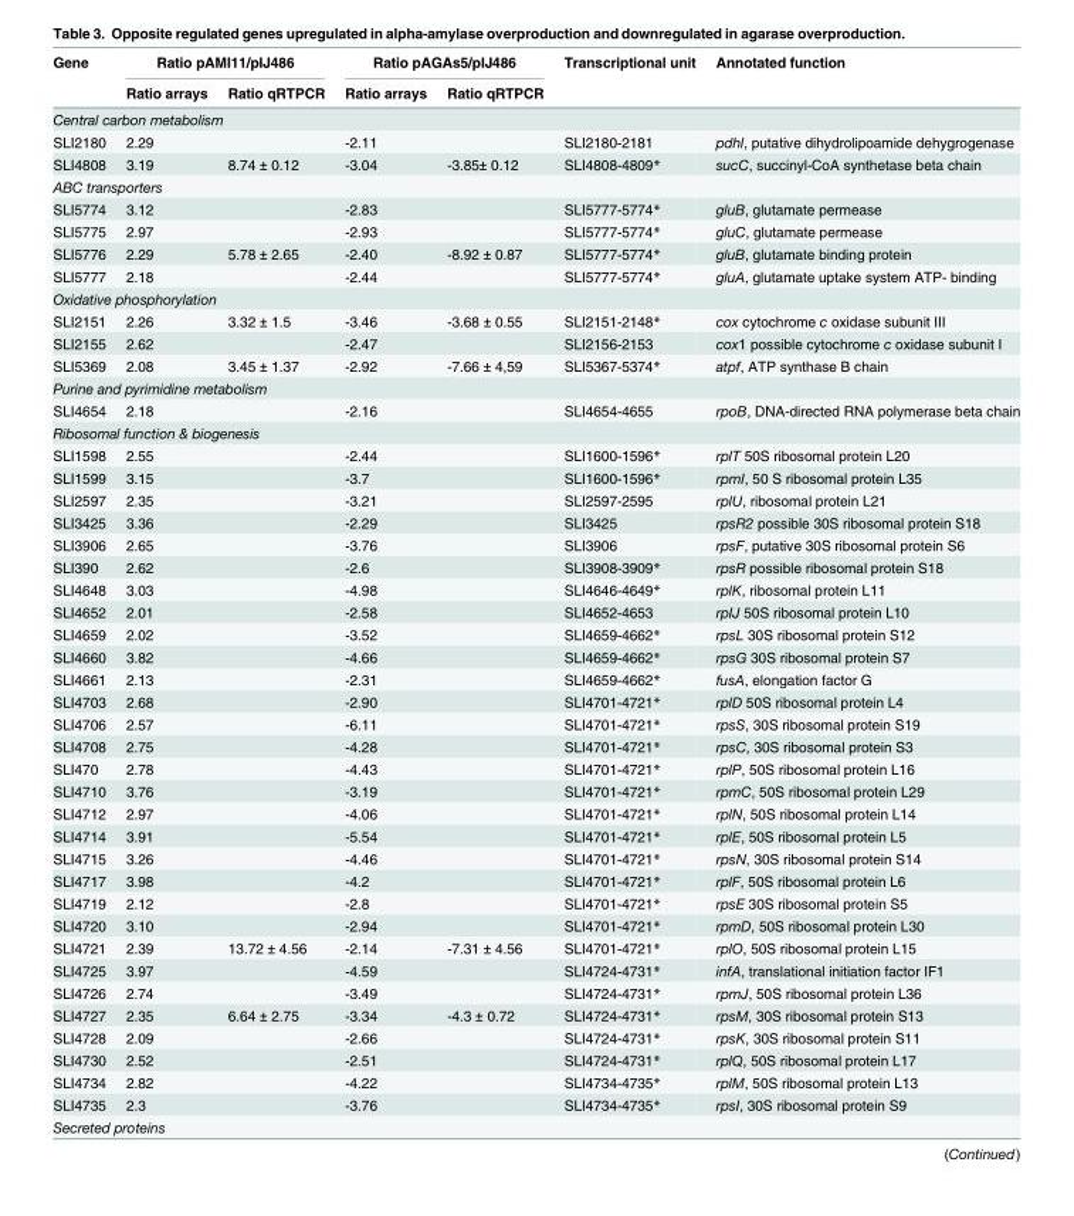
<table><thead><tr><td rowspan="2">Gene</td><td colspan="2">Ratio pAMI11/pIJ486</td><td colspan="2">Ratio pAGAs5/pIJ486</td><td rowspan="2">Transcriptional unit</td><td rowspan="2">Annotated function</td></tr><tr><td>Ratio arrays</td><td>Ratio qRTPCR</td><td>Ratio arrays</td><td>Ratio qRTPCR</td></tr></thead><tbody><tr><td colspan="7">Central carbon metabolism</td></tr><tr><td>SLI2180</td><td>2.29</td><td></td><td>-2.11</td><td></td><td>SLI2180-2181</td><td>pdhl, putative dihydrolipoamide dehygrogenase</td></tr><tr><td>SLI4808</td><td>3.19</td><td>8.74 ± 0.12</td><td>-3.04</td><td>-3.85± 0.12</td><td>SLI4808-4809*</td><td>sucC, succinyl-CoA synthetase beta chain</td></tr><tr><td colspan="7">ABC transporters</td></tr><tr><td>SLI5774</td><td>3.12</td><td></td><td>-2.83</td><td></td><td>SLI5777-5774*</td><td>gluB, glutamate permease</td></tr><tr><td>SLI5775</td><td>2.97</td><td></td><td>-2.93</td><td></td><td>SLI5777-5774*</td><td>gluC, glutamate permease</td></tr><tr><td>SLI5776</td><td>2.29</td><td>5.78 ± 2.65</td><td>-2.40</td><td>-8.92 ± 0.87</td><td>SLI5777-5774*</td><td>gluB, glutamate binding protein</td></tr><tr><td>SLI5777</td><td>2.18</td><td></td><td>-2.44</td><td></td><td>SLI5777-5774*</td><td>gluA, glutamate uptake system ATP- binding</td></tr><tr><td colspan="7">Oxidative phosphorylation</td></tr><tr><td>SLI2151</td><td>2.26</td><td>3.32 ± 1.5</td><td>-3.46</td><td>-3.68 ± 0.55</td><td>SLI2151-2148*</td><td>cox cytochrome c oxidase subunit III</td></tr><tr><td>SLI2155</td><td>2.62</td><td></td><td>-2.47</td><td></td><td>SLI2156-2153</td><td>cox1 possible cytochrome c oxidase subunit I</td></tr><tr><td>SLI5369</td><td>2.08</td><td>3.45 ± 1.37</td><td>-2.92</td><td>-7.66 ± 4,59</td><td>SLI5367-5374*</td><td>atpf, ATP synthase B chain</td></tr><tr><td colspan="7">Purine and pyrimidine metabolism</td></tr><tr><td>SLI4654</td><td>2.18</td><td></td><td>-2.16</td><td></td><td>SLI4654-4655</td><td>rpoB, DNA-directed RNA polymerase beta chain</td></tr><tr><td colspan="7">Ribosomal function &amp; biogenesis</td></tr><tr><td>SLI1598</td><td>2.55</td><td></td><td>-2.44</td><td></td><td>SLI1600-1596*</td><td>rplT 50S ribosomal protein L20</td></tr><tr><td>SLI1599</td><td>3.15</td><td></td><td>-3.7</td><td></td><td>SLI1600-1596*</td><td>rpmI, 50 S ribosomal protein L35</td></tr><tr><td>SLI2597</td><td>2.35</td><td></td><td>-3.21</td><td></td><td>SLI2597-2595</td><td>rplU, ribosomal protein L21</td></tr><tr><td>SLI3425</td><td>3.36</td><td></td><td>-2.29</td><td></td><td>SLI3425</td><td>rpsR2 possible 30S ribosomal protein S18</td></tr><tr><td>SLI3906</td><td>2.65</td><td></td><td>-3.76</td><td></td><td>SLI3906</td><td>rpsF, putative 30S ribosomal protein S6</td></tr><tr><td>SLI390</td><td>2.62</td><td></td><td>-2.6</td><td></td><td>SLI3908-3909*</td><td>rpsR possible ribosomal protein S18</td></tr><tr><td>SLI4648</td><td>3.03</td><td></td><td>-4.98</td><td></td><td>SLI4646-4649*</td><td>rplK, ribosomal protein L11</td></tr><tr><td>SLI4652</td><td>2.01</td><td></td><td>-2.58</td><td></td><td>SLI4652-4653</td><td>rpIJ 50S ribosomal protein L10</td></tr><tr><td>SLI4659</td><td>2.02</td><td></td><td>-3.52</td><td></td><td>SLI4659-4662*</td><td>rpsL 30S ribosomal protein S12</td></tr><tr><td>SLI4660</td><td>3.82</td><td></td><td>-4.66</td><td></td><td>SLI4659-4662*</td><td>rpsG 30S ribosomal protein S7</td></tr><tr><td>SLI4661</td><td>2.13</td><td></td><td>-2.31</td><td></td><td>SLI4659-4662*</td><td>fusA, elongation factor G</td></tr><tr><td>SLI4703</td><td>2.68</td><td></td><td>-2.90</td><td></td><td>SLI4701-4721*</td><td>rplD 50S ribosomal protein L4</td></tr><tr><td>SLI4706</td><td>2.57</td><td></td><td>-6.11</td><td></td><td>SLI4701-4721*</td><td>rpsS, 30S ribosomal protein S19</td></tr><tr><td>SLI4708</td><td>2.75</td><td></td><td>-4.28</td><td></td><td>SLI4701-4721*</td><td>rpsC, 30S ribosomal protein S3</td></tr><tr><td>SLI470</td><td>2.78</td><td></td><td>-4.43</td><td></td><td>SLI4701-4721*</td><td>rplP, 50S ribosomal protein L16</td></tr><tr><td>SLI4710</td><td>3.76</td><td></td><td>-3.19</td><td></td><td>SLI4701-4721*</td><td>rpmC, 50S ribosomal protein L29</td></tr><tr><td>SLI4712</td><td>2.97</td><td></td><td>-4.06</td><td></td><td>SLI4701-4721*</td><td>rplN, 50S ribosomal protein L14</td></tr><tr><td>SLI4714</td><td>3.91</td><td></td><td>-5.54</td><td></td><td>SLI4701-4721*</td><td>rplE, 50S ribosomal protein L5</td></tr><tr><td>SLI4715</td><td>3.26</td><td></td><td>-4.46</td><td></td><td>SLI4701-4721*</td><td>rpsN, 30S ribosomal protein S14</td></tr><tr><td>SLI4717</td><td>3.98</td><td></td><td>-4.2</td><td></td><td>SLI4701-4721*</td><td>rplF, 50S ribosomal protein L6</td></tr><tr><td>SLI4719</td><td>2.12</td><td></td><td>-2.8</td><td></td><td>SLI4701-4721*</td><td>rpsE 30S ribosomal protein S5</td></tr><tr><td>SLI4720</td><td>3.10</td><td></td><td>-2.94</td><td></td><td>SLI4701-4721*</td><td>rpmD, 50S ribosomal protein L30</td></tr><tr><td>SLI4721</td><td>2.39</td><td>13.72 ± 4.56</td><td>-2.14</td><td>-7.31 ± 4.56</td><td>SLI4701-4721*</td><td>rplO, 50S ribosomal protein L15</td></tr><tr><td>SLI4725</td><td>3.97</td><td></td><td>-4.59</td><td></td><td>SLI4724-4731*</td><td>infA, translational initiation factor IF1</td></tr><tr><td>SLI4726</td><td>2.74</td><td></td><td>-3.49</td><td></td><td>SLI4724-4731*</td><td>rpmJ, 50S ribosomal protein L36</td></tr><tr><td>SLI4727</td><td>2.35</td><td>6.64 ± 2.75</td><td>-3.34</td><td>-4.3 ± 0.72</td><td>SLI4724-4731*</td><td>rpsM, 30S ribosomal protein S13</td></tr><tr><td>SLI4728</td><td>2.09</td><td></td><td>-2.66</td><td></td><td>SLI4724-4731*</td><td>rpsK, 30S ribosomal protein S11</td></tr><tr><td>SLI4730</td><td>2.52</td><td></td><td>-2.51</td><td></td><td>SLI4724-4731*</td><td>rplQ, 50S ribosomal protein L17</td></tr><tr><td>SLI4734</td><td>2.82</td><td></td><td>-4.22</td><td></td><td>SLI4734-4735*</td><td>rplM, 50S ribosomal protein L13</td></tr><tr><td>SLI4735</td><td>2.3</td><td></td><td>-3.76</td><td></td><td>SLI4734-4735*</td><td>rpsI, 30S ribosomal protein S9</td></tr><tr><td colspan="7">Secreted proteins</td></tr><tr><td></td><td></td><td></td><td></td><td></td><td></td><td>(Continued)</td></tr></tbody></table>